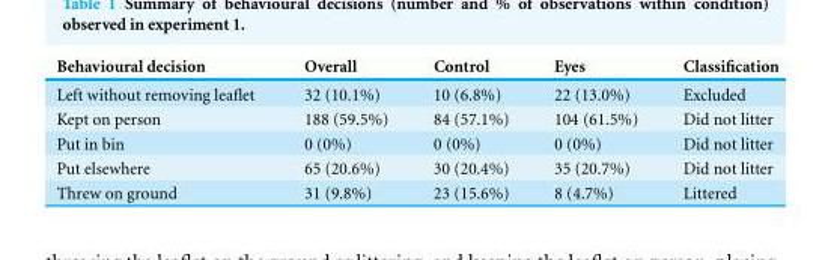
<table><thead><tr><td>Behavioural decision</td><td>Overall</td><td>Control</td><td>Eyes</td><td>Classification</td></tr></thead><tbody><tr><td>Left without removing leaflet</td><td>32 (10.1%)</td><td>10 (6.8%)</td><td>22 (13.0%)</td><td>Excluded</td></tr><tr><td>Kept on person</td><td>188 (59.5%)</td><td>84 (57.1%)</td><td>104 (61.5%)</td><td>Did not litter</td></tr><tr><td>Put in bin</td><td>0 (0%)</td><td>0 (0%)</td><td>0 (0%)</td><td>Did not litter</td></tr><tr><td>Put elsewhere</td><td>65 (20.6%)</td><td>30 (20.4%)</td><td>35 (20.7%)</td><td>Did not litter</td></tr><tr><td>Threw on ground</td><td>31 (9.8%)</td><td>23 (15.6%)</td><td>8 (4.7%)</td><td>Littered</td></tr></tbody></table>